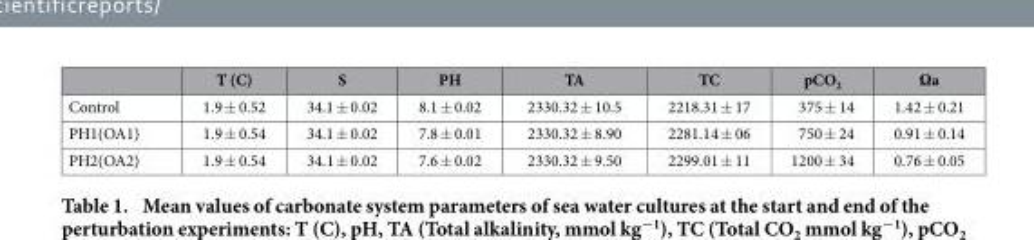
<table><thead><tr><td></td><td>T (C)</td><td>S</td><td>PH</td><td>TA</td><td>TC</td><td>pCO<sub>2</sub></td><td>Ωa</td></tr></thead><tbody><tr><td>Control</td><td>1.9 ± 0.52</td><td>34.1 ± 0.02</td><td>8.1 ± 0.02</td><td>2330.32 ± 10.5</td><td>2218.31 ± 17</td><td>375 ± 14</td><td>1.42 ± 0.21</td></tr><tr><td>PH1(OA1)</td><td>1.9 ± 0.54</td><td>34.1 ± 0.02</td><td>7.8 ± 0.01</td><td>2330.32 ± 8.90</td><td>2281.14 ± 06</td><td>750 ± 24</td><td>0.91 ± 0.14</td></tr><tr><td>PH2(OA2)</td><td>1.9 ± 0.54</td><td>34.1 ± 0.02</td><td>7.6 ± 0.02</td><td>2330.32 ± 9.50</td><td>2299.01 ± 11</td><td>1200 ± 34</td><td>0.76 ± 0.05</td></tr></tbody></table>